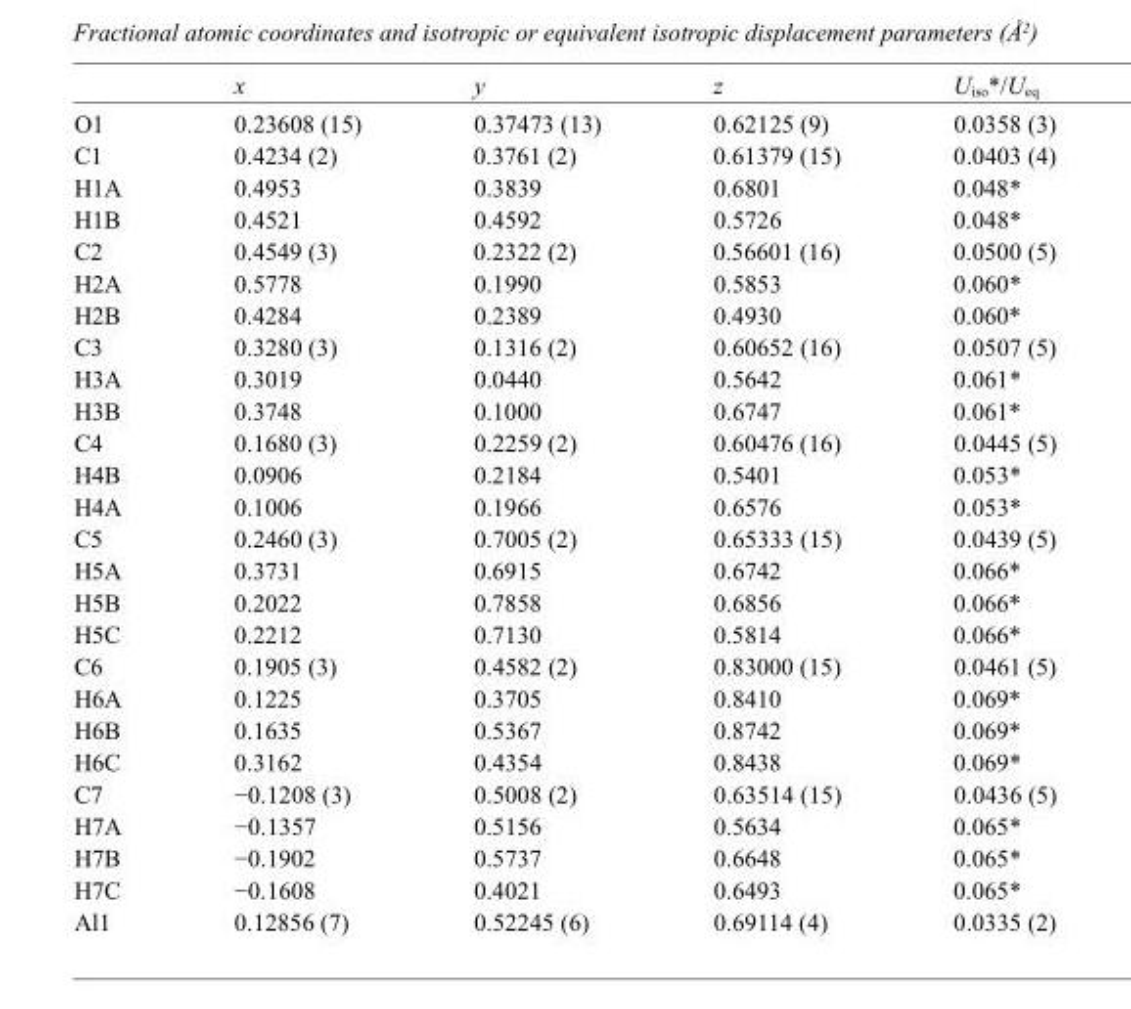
<table><thead><tr><td></td><td>x</td><td>y</td><td>z</td><td>U<sub>iso</sub>*/U<sub>eq</sub></td></tr></thead><tbody><tr><td>O1</td><td>0.23608 (15)</td><td>0.37473 (13)</td><td>0.62125 (9)</td><td>0.0358 (3)</td></tr><tr><td>C1</td><td>0.4234 (2)</td><td>0.3761 (2)</td><td>0.61379 (15)</td><td>0.0403 (4)</td></tr><tr><td>H1A</td><td>0.4953</td><td>0.3839</td><td>0.6801</td><td>0.048*</td></tr><tr><td>H1B</td><td>0.4521</td><td>0.4592</td><td>0.5726</td><td>0.048*</td></tr><tr><td>C2</td><td>0.4549 (3)</td><td>0.2322 (2)</td><td>0.56601 (16)</td><td>0.0500 (5)</td></tr><tr><td>H2A</td><td>0.5778</td><td>0.1990</td><td>0.5853</td><td>0.060*</td></tr><tr><td>H2B</td><td>0.4284</td><td>0.2389</td><td>0.4930</td><td>0.060*</td></tr><tr><td>C3</td><td>0.3280 (3)</td><td>0.1316 (2)</td><td>0.60652 (16)</td><td>0.0507 (5)</td></tr><tr><td>H3A</td><td>0.3019</td><td>0.0440</td><td>0.5642</td><td>0.061*</td></tr><tr><td>H3B</td><td>0.3748</td><td>0.1000</td><td>0.6747</td><td>0.061*</td></tr><tr><td>C4</td><td>0.1680 (3)</td><td>0.2259 (2)</td><td>0.60476 (16)</td><td>0.0445 (5)</td></tr><tr><td>H4B</td><td>0.0906</td><td>0.2184</td><td>0.5401</td><td>0.053*</td></tr><tr><td>H4A</td><td>0.1006</td><td>0.1966</td><td>0.6576</td><td>0.053*</td></tr><tr><td>C5</td><td>0.2460 (3)</td><td>0.7005 (2)</td><td>0.65333 (15)</td><td>0.0439 (5)</td></tr><tr><td>H5A</td><td>0.3731</td><td>0.6915</td><td>0.6742</td><td>0.066*</td></tr><tr><td>H5B</td><td>0.2022</td><td>0.7858</td><td>0.6856</td><td>0.066*</td></tr><tr><td>H5C</td><td>0.2212</td><td>0.7130</td><td>0.5814</td><td>0.066*</td></tr><tr><td>C6</td><td>0.1905 (3)</td><td>0.4582 (2)</td><td>0.83000 (15)</td><td>0.0461 (5)</td></tr><tr><td>H6A</td><td>0.1225</td><td>0.3705</td><td>0.8410</td><td>0.069*</td></tr><tr><td>H6B</td><td>0.1635</td><td>0.5367</td><td>0.8742</td><td>0.069*</td></tr><tr><td>H6C</td><td>0.3162</td><td>0.4354</td><td>0.8438</td><td>0.069*</td></tr><tr><td>C7</td><td>−0.1208 (3)</td><td>0.5008 (2)</td><td>0.63514 (15)</td><td>0.0436 (5)</td></tr><tr><td>H7A</td><td>−0.1357</td><td>0.5156</td><td>0.5634</td><td>0.065*</td></tr><tr><td>H7B</td><td>−0.1902</td><td>0.5737</td><td>0.6648</td><td>0.065*</td></tr><tr><td>H7C</td><td>−0.1608</td><td>0.4021</td><td>0.6493</td><td>0.065*</td></tr><tr><td>Al1</td><td>0.12856 (7)</td><td>0.52245 (6)</td><td>0.69114 (4)</td><td>0.0335 (2)</td></tr></tbody></table>